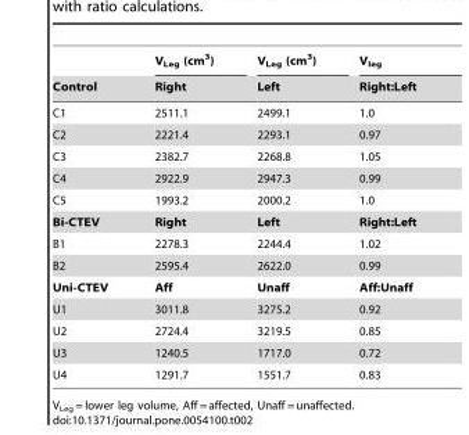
<table><thead><tr><td rowspan="2">Control</td><td rowspan="2">VLeg (cm3) Right</td><td rowspan="2">VLeg (cm3) Left</td><td rowspan="2">Vleg Right:Left</td></tr><tr></tr></thead><tbody><tr><td>C1</td><td>2511.1</td><td>2499.1</td><td>1.0</td></tr><tr><td>C2</td><td>2221.4</td><td>2293.1</td><td>0.97</td></tr><tr><td>C3</td><td>2382.7</td><td>2268.8</td><td>1.05</td></tr><tr><td>C4</td><td>2922.9</td><td>2947.3</td><td>0.99</td></tr><tr><td>C5</td><td>1993.2</td><td>2000.2</td><td>1.0</td></tr><tr><td>Bi-CTEV</td><td>Right</td><td>Left</td><td>Right:Left</td></tr><tr><td>B1</td><td>2278.3</td><td>2244.4</td><td>1.02</td></tr><tr><td>B2</td><td>2595.4</td><td>2622.0</td><td>0.99</td></tr><tr><td>Uni-CTEV</td><td>Aff</td><td>Unaff</td><td>Aff:Unaff</td></tr><tr><td>U1</td><td>3011.8</td><td>3275.2</td><td>0.92</td></tr><tr><td>U2</td><td>2724.4</td><td>3219.5</td><td>0.85</td></tr><tr><td>U3</td><td>1240.5</td><td>1717.0</td><td>0.72</td></tr><tr><td>U4</td><td>1291.7</td><td>1551.7</td><td>0.83</td></tr></tbody></table>